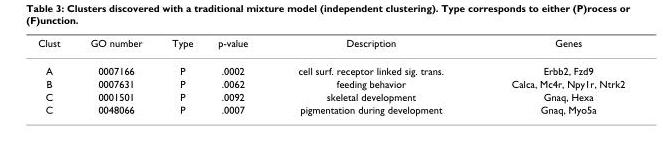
<table><thead><tr><td>Clust</td><td>GO number</td><td>Type</td><td>p-value</td><td>Description</td><td>Genes</td></tr></thead><tbody><tr><td>A</td><td>0007166</td><td>P</td><td>.0002</td><td>cell surf. receptor linked sig. trans.</td><td>Erbb2, Fzd9</td></tr><tr><td>B</td><td>0007631</td><td>P</td><td>.0062</td><td>feeding behavior</td><td>Calca, Mc4r, Npy1r, Ntrk2</td></tr><tr><td>C</td><td>0001501</td><td>P</td><td>.0092</td><td>skeletal development</td><td>Gnaq, Hexa</td></tr><tr><td>C</td><td>0048066</td><td>P</td><td>.0007</td><td>pigmentation during development</td><td>Gnaq, Myo5a</td></tr></tbody></table>